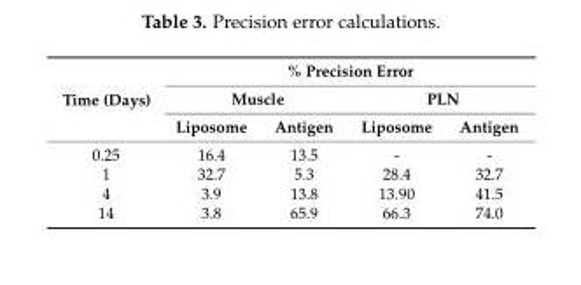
<table><thead><tr><td rowspan="3">Time (Days)</td><td colspan="4">% Precision Error</td></tr><tr><td colspan="2">Muscle</td><td colspan="2">PLN</td></tr><tr><td>Liposome</td><td>Antigen</td><td>Liposome</td><td>Antigen</td></tr></thead><tbody><tr><td>0.25</td><td>16.4</td><td>13.5</td><td>-</td><td>-</td></tr><tr><td>1</td><td>32.7</td><td>5.3</td><td>28.4</td><td>32.7</td></tr><tr><td>4</td><td>3.9</td><td>13.8</td><td>13.90</td><td>41.5</td></tr><tr><td>14</td><td>3.8</td><td>65.9</td><td>66.3</td><td>74.0</td></tr></tbody></table>